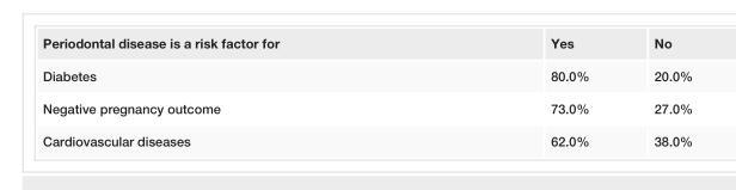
<table><tbody><tr><td>Periodontal disease is a risk factor for</td><td>Yes</td><td>No</td></tr><tr><td>Diabetes</td><td>80.0%</td><td>20.0%</td></tr><tr><td>Negative pregnancy outcome</td><td>73.0%</td><td>27.0%</td></tr><tr><td>Cardiovascular diseases</td><td>62.0%</td><td>38.0%</td></tr></tbody></table>